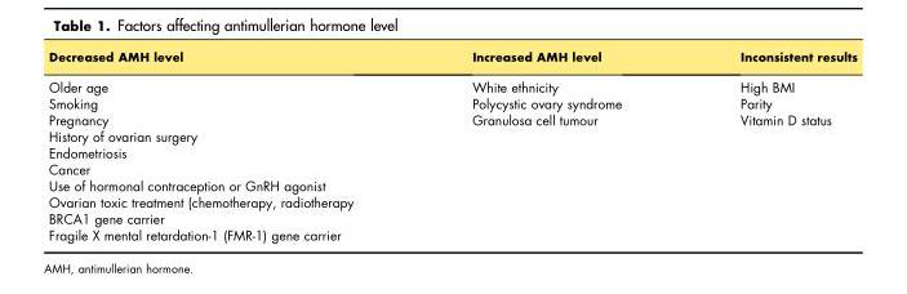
<table><thead><tr><td>Decreased AMH level</td><td>Increased AMH level</td><td>Inconsistent results</td></tr></thead><tbody><tr><td>Older age Smoking Pregnancy History of ovarian surgery Endometriosis Cancer Use of hormonal contraception or GnRH agonist Ovarian toxic treatment (chemotherapy, radiotherapy BRCA1 gene carrier Fragile X mental retardation-1 (FMR-1) gene carrier</td><td>White ethnicity Polycystic ovary syndrome Granulosa cell tumour</td><td>High BMI Parity Vitamin D status</td></tr></tbody></table>